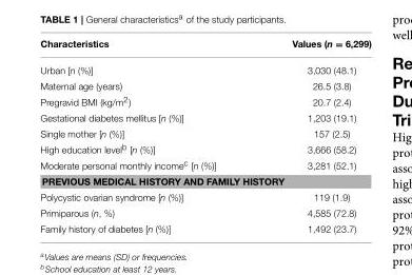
<table><thead><tr><td>Characteristics</td><td>Values (n = 6,299)</td></tr></thead><tbody><tr><td>Urban [n (%)]</td><td>3,030 (48.1)</td></tr><tr><td>Maternal age (years)</td><td>26.5 (3.8)</td></tr><tr><td>Pregravid BMI (kg/m<sup>2</sup>)</td><td>20.7 (2.4)</td></tr><tr><td>Gestational diabetes mellitus [n (%)]</td><td>1,203 (19.1)</td></tr><tr><td>Single mother [n (%)]</td><td>157 (2.5)</td></tr><tr><td>High education level<sup>b</sup> [n (%)]</td><td>3,666 (58.2)</td></tr><tr><td>Moderate personal monthly income<sup>c</sup> [n (%)]</td><td>3,281 (52.1)</td></tr><tr><td colspan="2">PREVIOUS MEDICAL HISTORY AND FAMILY HISTORY</td></tr><tr><td>Polycystic ovarian syndrome [n (%)]</td><td>119 (1.9)</td></tr><tr><td>Primiparous (n, %)</td><td>4,585 (72.8)</td></tr><tr><td>Family history of diabetes [n (%)]</td><td>1,492 (23.7)</td></tr></tbody></table>